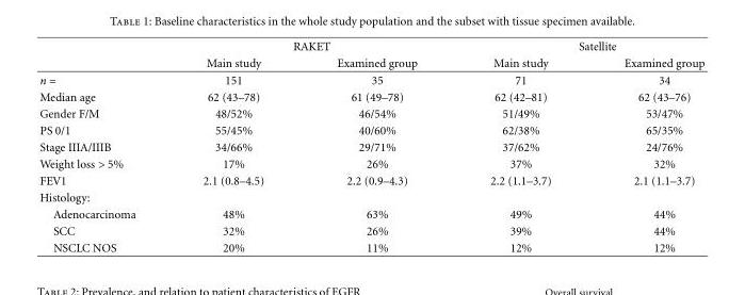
<table><thead><tr><td rowspan="2"></td><td colspan="2">RAKET</td><td colspan="2">Satellite</td></tr><tr><td>Main study</td><td>Examined group</td><td>Main study</td><td>Examined group</td></tr></thead><tbody><tr><td>n =</td><td>151</td><td>35</td><td>71</td><td>34</td></tr><tr><td>Median age</td><td>62 (43–78)</td><td>61 (49–78)</td><td>62 (42–81)</td><td>62 (43–76)</td></tr><tr><td>Gender F/M</td><td>48/52%</td><td>46/54%</td><td>51/49%</td><td>53/47%</td></tr><tr><td>PS 0/1</td><td>55/45%</td><td>40/60%</td><td>62/38%</td><td>65/35%</td></tr><tr><td>Stage IIIA/IIIB</td><td>34/66%</td><td>29/71%</td><td>37/62%</td><td>24/76%</td></tr><tr><td>Weight loss &gt; 5%</td><td>17%</td><td>26%</td><td>37%</td><td>32%</td></tr><tr><td>FEV1</td><td>2.1 (0.8–4.5)</td><td>2.2 (0.9–4.3)</td><td>2.2 (1.1–3.7)</td><td>2.1 (1.1–3.7)</td></tr><tr><td colspan="5">Histology:</td></tr><tr><td>Adenocarcinoma</td><td>48%</td><td>63%</td><td>49%</td><td>44%</td></tr><tr><td>SCC</td><td>32%</td><td>26%</td><td>39%</td><td>44%</td></tr><tr><td>NSCLC NOS</td><td>20%</td><td>11%</td><td>12%</td><td>12%</td></tr></tbody></table>